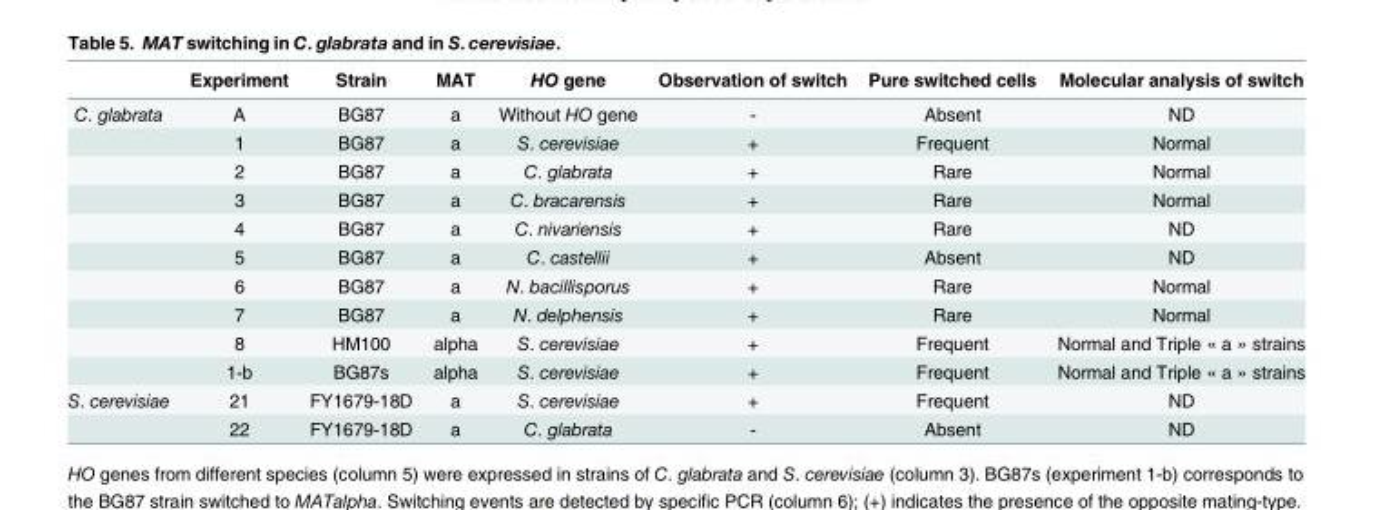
<table><thead><tr><td></td><td>Experiment</td><td>Strain</td><td>MAT</td><td>HO gene</td><td>Observation of switch</td><td>Pure switched cells</td><td>Molecular analysis of switch</td></tr></thead><tbody><tr><td rowspan="10">C. glabrata</td><td>A</td><td>BG87</td><td>a</td><td>Without HO gene</td><td>-</td><td>Absent</td><td>ND</td></tr><tr><td>1</td><td>BG87</td><td>a</td><td>S. cerevisiae</td><td>+</td><td>Frequent</td><td>Normal</td></tr><tr><td>2</td><td>BG87</td><td>a</td><td>C. glabrata</td><td>+</td><td>Rare</td><td>Normal</td></tr><tr><td>3</td><td>BG87</td><td>a</td><td>C. bracarensis</td><td>+</td><td>Rare</td><td>Normal</td></tr><tr><td>4</td><td>BG87</td><td>a</td><td>C. nivariensis</td><td>+</td><td>Rare</td><td>ND</td></tr><tr><td>5</td><td>BG87</td><td>a</td><td>C. castellii</td><td>+</td><td>Absent</td><td>ND</td></tr><tr><td>6</td><td>BG87</td><td>a</td><td>N. bacillisporus</td><td>+</td><td>Rare</td><td>Normal</td></tr><tr><td>7</td><td>BG87</td><td>a</td><td>N. delphensis</td><td>+</td><td>Rare</td><td>Normal</td></tr><tr><td>8</td><td>HM100</td><td>alpha</td><td>S. cerevisiae</td><td>+</td><td>Frequent</td><td>Normal and Triple « a » strains</td></tr><tr><td>1-b</td><td>BG87s</td><td>alpha</td><td>S. cerevisiae</td><td>+</td><td>Frequent</td><td>Normal and Triple « a » strains</td></tr><tr><td rowspan="2">S. cerevisiae</td><td>21</td><td>FY1679-18D</td><td>a</td><td>S. cerevisiae</td><td>+</td><td>Frequent</td><td>ND</td></tr><tr><td>22</td><td>FY1679-18D</td><td>a</td><td>C. glabrata</td><td>-</td><td>Absent</td><td>ND</td></tr></tbody></table>